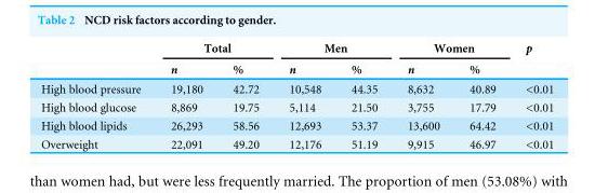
<table><thead><tr><td rowspan="2"></td><td colspan="2">Total</td><td colspan="2">Men</td><td colspan="2">Women</td><td rowspan="2">p</td></tr><tr><td>n</td><td>%</td><td>n</td><td>%</td><td>n</td><td>%</td></tr></thead><tbody><tr><td>High blood pressure</td><td>19,180</td><td>42.72</td><td>10,548</td><td>44.35</td><td>8,632</td><td>40.89</td><td>&lt;0.01</td></tr><tr><td>High blood glucose</td><td>8,869</td><td>19.75</td><td>5,114</td><td>21.50</td><td>3,755</td><td>17.79</td><td>&lt;0.01</td></tr><tr><td>High blood lipids</td><td>26,293</td><td>58.56</td><td>12,693</td><td>53.37</td><td>13,600</td><td>64.42</td><td>&lt;0.01</td></tr><tr><td>Overweight</td><td>22,091</td><td>49.20</td><td>12,176</td><td>51.19</td><td>9,915</td><td>46.97</td><td>&lt;0.01</td></tr></tbody></table>